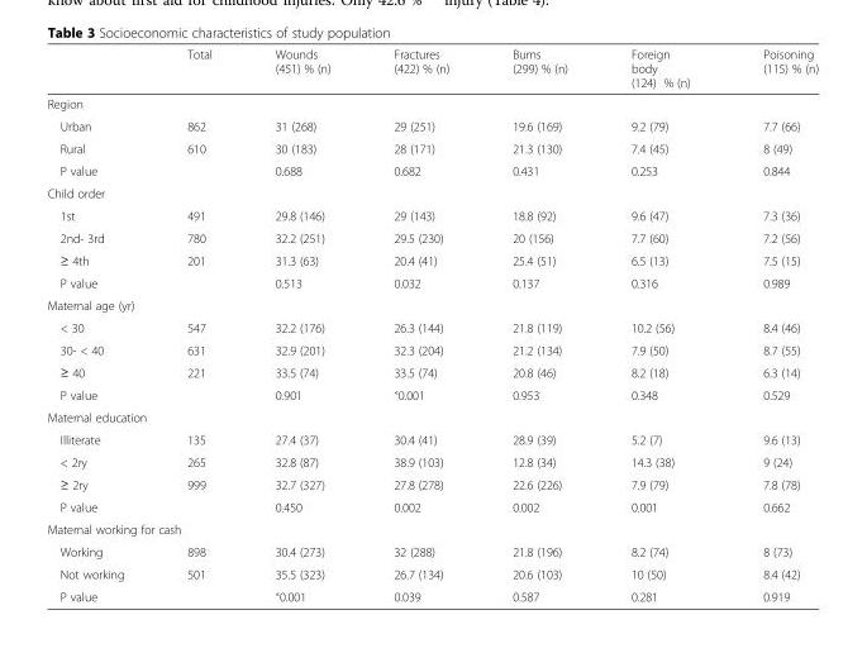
<table><thead><tr><td></td><td>Total</td><td>Wounds (451) % (n)</td><td>Fractures (422) % (n)</td><td>Burns (299) % (n)</td><td>Foreign body (124) % (n)</td><td>Poisoning (115) % (n)</td></tr></thead><tbody><tr><td colspan="7">Region</td></tr><tr><td>Urban</td><td>862</td><td>31 (268)</td><td>29 (251)</td><td>19.6 (169)</td><td>9.2 (79)</td><td>7.7 (66)</td></tr><tr><td>Rural</td><td>610</td><td>30 (183)</td><td>28 (171)</td><td>21.3 (130)</td><td>7.4 (45)</td><td>8 (49)</td></tr><tr><td>P value</td><td></td><td>0.688</td><td>0.682</td><td>0.431</td><td>0.253</td><td>0.844</td></tr><tr><td colspan="7">Child order</td></tr><tr><td>1st</td><td>491</td><td>29.8 (146)</td><td>29 (143)</td><td>18.8 (92)</td><td>9.6 (47)</td><td>7.3 (36)</td></tr><tr><td>2nd- 3rd</td><td>780</td><td>32.2 (251)</td><td>29.5 (230)</td><td>20 (156)</td><td>7.7 (60)</td><td>7.2 (56)</td></tr><tr><td>≥ 4th</td><td>201</td><td>31.3 (63)</td><td>20.4 (41)</td><td>25.4 (51)</td><td>6.5 (13)</td><td>7.5 (15)</td></tr><tr><td>P value</td><td></td><td>0.513</td><td>0.032</td><td>0.137</td><td>0.316</td><td>0.989</td></tr><tr><td colspan="7">Maternal age (yr)</td></tr><tr><td>&lt; 30</td><td>547</td><td>32.2 (176)</td><td>26.3 (144)</td><td>21.8 (119)</td><td>10.2 (56)</td><td>8.4 (46)</td></tr><tr><td>30- &lt; 40</td><td>631</td><td>32.9 (201)</td><td>32.3 (204)</td><td>21.2 (134)</td><td>7.9 (50)</td><td>8.7 (55)</td></tr><tr><td>≥ 40</td><td>221</td><td>33.5 (74)</td><td>33.5 (74)</td><td>20.8 (46)</td><td>8.2 (18)</td><td>6.3 (14)</td></tr><tr><td>P value</td><td></td><td>0.901</td><td>˂0.001</td><td>0.953</td><td>0.348</td><td>0.529</td></tr><tr><td colspan="7">Maternal education</td></tr><tr><td>Illiterate</td><td>135</td><td>27.4 (37)</td><td>30.4 (41)</td><td>28.9 (39)</td><td>5.2 (7)</td><td>9.6 (13)</td></tr><tr><td>&lt; 2ry</td><td>265</td><td>32.8 (87)</td><td>38.9 (103)</td><td>12.8 (34)</td><td>14.3 (38)</td><td>9 (24)</td></tr><tr><td>≥ 2ry</td><td>999</td><td>32.7 (327)</td><td>27.8 (278)</td><td>22.6 (226)</td><td>7.9 (79)</td><td>7.8 (78)</td></tr><tr><td>P value</td><td></td><td>0.450</td><td>0.002</td><td>0.002</td><td>0.001</td><td>0.662</td></tr><tr><td colspan="7">Maternal working for cash</td></tr><tr><td>Working</td><td>898</td><td>30.4 (273)</td><td>32 (288)</td><td>21.8 (196)</td><td>8.2 (74)</td><td>8 (73)</td></tr><tr><td>Not working</td><td>501</td><td>35.5 (323)</td><td>26.7 (134)</td><td>20.6 (103)</td><td>10 (50)</td><td>8.4 (42)</td></tr><tr><td>P value</td><td></td><td>˂0.001</td><td>0.039</td><td>0.587</td><td>0.281</td><td>0.919</td></tr></tbody></table>